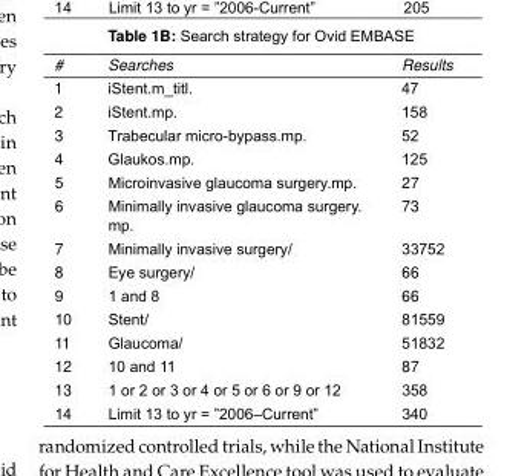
<table><tbody><tr><td>#</td><td>Searches</td><td>Results</td></tr><tr><td>1</td><td>iStent.m_titl.</td><td>47</td></tr><tr><td>2</td><td>iStent.mp.</td><td>158</td></tr><tr><td>3</td><td>Trabecular micro-bypass.mp.</td><td>52</td></tr><tr><td>4</td><td>Glaukos.mp.</td><td>125</td></tr><tr><td>5</td><td>Microinvasive glaucoma surgery.mp.</td><td>27</td></tr><tr><td>6</td><td>Minimally invasive glaucoma surgery. mp.</td><td>73</td></tr><tr><td>7</td><td>Minimally invasive surgery/</td><td>33752</td></tr><tr><td>8</td><td>Eye surgery/</td><td>66</td></tr><tr><td>9</td><td>1 and 8</td><td>66</td></tr><tr><td>10</td><td>Stent/</td><td>81559</td></tr><tr><td>11</td><td>Glaucoma/</td><td>51832</td></tr><tr><td>12</td><td>10 and 11</td><td>87</td></tr><tr><td>13</td><td>1 or 2 or 3 or 4 or 5 or 6 or 9 or 12</td><td>358</td></tr><tr><td>14</td><td>Limit 13 to yr = ”2006–Current”</td><td>340</td></tr></tbody></table>